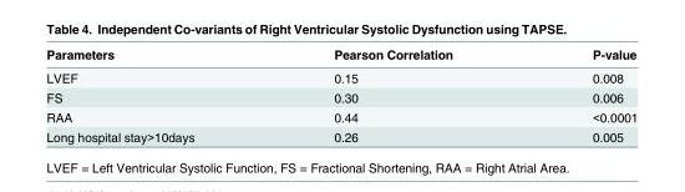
<table><thead><tr><td>Parameters</td><td>Pearson Correlation</td><td>P-value</td></tr></thead><tbody><tr><td>LVEF</td><td>0.15</td><td>0.008</td></tr><tr><td>FS</td><td>0.30</td><td>0.006</td></tr><tr><td>RAA</td><td>0.44</td><td>&lt;0.0001</td></tr><tr><td>Long hospital stay&gt;10days</td><td>0.26</td><td>0.005</td></tr></tbody></table>